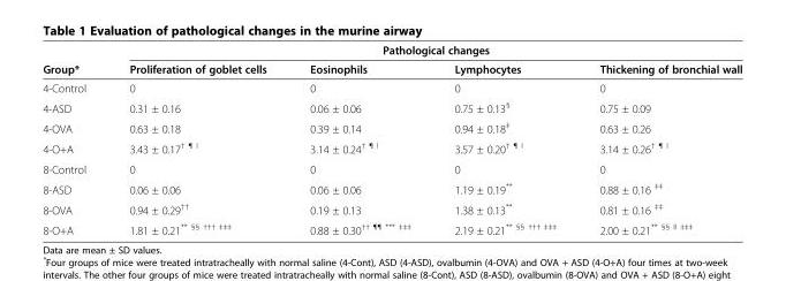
<table><thead><tr><td rowspan="2">Group*</td><td colspan="4">Pathological changes</td></tr><tr><td>Proliferation of goblet cells</td><td>Eosinophils</td><td>Lymphocytes</td><td>Thickening of bronchial wall</td></tr></thead><tbody><tr><td>4-Control</td><td>0</td><td>0</td><td>0</td><td>0</td></tr><tr><td>4-ASD</td><td>0.31 ± 0.16</td><td>0.06 ± 0.06</td><td>0.75 ± 0.13<sup>§</sup></td><td>0.75 ± 0.09</td></tr><tr><td>4-OVA</td><td>0.63 ± 0.18</td><td>0.39 ± 0.14</td><td>0.94 ± 0.18<sup>‡</sup></td><td>0.63 ± 0.26</td></tr><tr><td>4-O+A</td><td>3.43 ± 0.17<sup>† ¶ I</sup></td><td>3.14 ± 0.24<sup>† ¶ I</sup></td><td>3.57 ± 0.20<sup>† ¶ I</sup></td><td>3.14 ± 0.26<sup>† ¶ I</sup></td></tr><tr><td>8-Control</td><td>0</td><td>0</td><td>0</td><td>0</td></tr><tr><td>8-ASD</td><td>0.06 ± 0.06</td><td>0.06 ± 0.06</td><td>1.19 ± 0.19**</td><td>0.88 ± 0.16 <sup>‡‡</sup></td></tr><tr><td>8-OVA</td><td>0.94 ± 0.29<sup>††</sup></td><td>0.19 ± 0.13</td><td>1.38 ± 0.13**</td><td>0.81 ± 0.16 <sup>‡‡</sup></td></tr><tr><td>8-O+A</td><td>1.81 ± 0.21<sup>** §§ ††† ‡‡‡</sup></td><td>0.88 ± 0.30<sup>†† ¶¶ *** ‡‡‡</sup></td><td>2.19 ± 0.21<sup>** §§ ††† ‡‡‡</sup></td><td>2.00 ± 0.21<sup>** §§ II ‡‡‡</sup></td></tr></tbody></table>